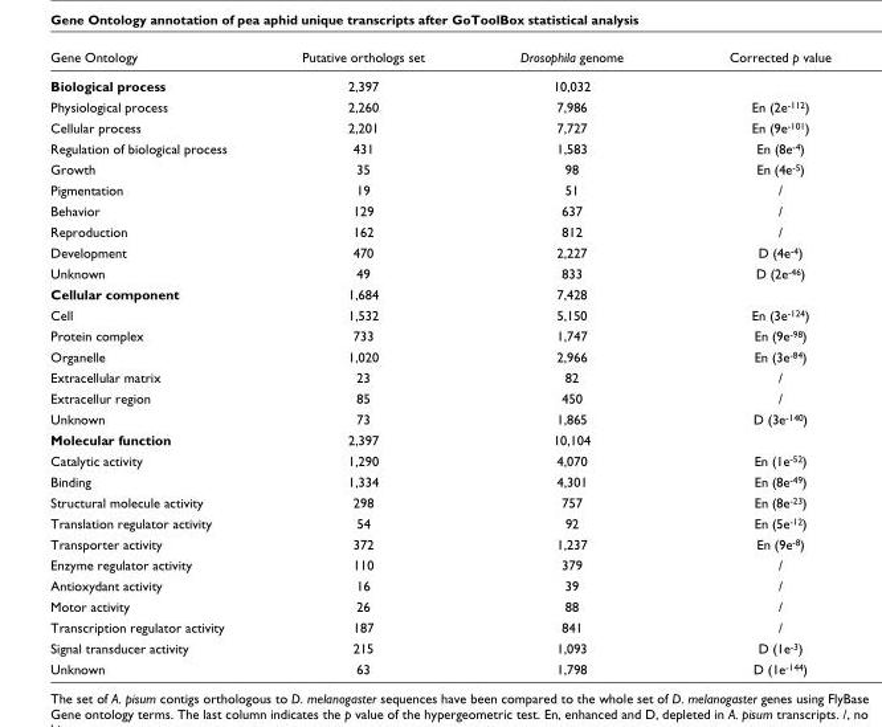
<table><thead><tr><td>Gene Ontology</td><td>Putative orthologs set</td><td>Drosophila genome</td><td>Corrected p value</td></tr></thead><tbody><tr><td>Biological process</td><td>2,397</td><td>10,032</td><td></td></tr><tr><td>Physiological process</td><td>2,260</td><td>7,986</td><td>En (2e-112)</td></tr><tr><td>Cellular process</td><td>2,201</td><td>7,727</td><td>En (9e-101)</td></tr><tr><td>Regulation of biological process</td><td>431</td><td>1,583</td><td>En (8e-4)</td></tr><tr><td>Growth</td><td>35</td><td>98</td><td>En (4e-5)</td></tr><tr><td>Pigmentation</td><td>19</td><td>51</td><td>/</td></tr><tr><td>Behavior</td><td>129</td><td>637</td><td>/</td></tr><tr><td>Reproduction</td><td>162</td><td>812</td><td>/</td></tr><tr><td>Development</td><td>470</td><td>2,227</td><td>D (4e-4)</td></tr><tr><td>Unknown</td><td>49</td><td>833</td><td>D (2e-46)</td></tr><tr><td>Cellular component</td><td>1,684</td><td>7,428</td><td></td></tr><tr><td>Cell</td><td>1,532</td><td>5,150</td><td>En (3e-124)</td></tr><tr><td>Protein complex</td><td>733</td><td>1,747</td><td>En (9e-98)</td></tr><tr><td>Organelle</td><td>1,020</td><td>2,966</td><td>En (3e-84)</td></tr><tr><td>Extracellular matrix</td><td>23</td><td>82</td><td>/</td></tr><tr><td>Extracellur region</td><td>85</td><td>450</td><td>/</td></tr><tr><td>Unknown</td><td>73</td><td>1,865</td><td>D (3e-140)</td></tr><tr><td>Molecular function</td><td>2,397</td><td>10,104</td><td></td></tr><tr><td>Catalytic activity</td><td>1,290</td><td>4,070</td><td>En (1e-52)</td></tr><tr><td>Binding</td><td>1,334</td><td>4,301</td><td>En (8e-49)</td></tr><tr><td>Structural molecule activity</td><td>298</td><td>757</td><td>En (8e-23)</td></tr><tr><td>Translation regulator activity</td><td>54</td><td>92</td><td>En (5e-12)</td></tr><tr><td>Transporter activity</td><td>372</td><td>1,237</td><td>En (9e-8)</td></tr><tr><td>Enzyme regulator activity</td><td>110</td><td>379</td><td>/</td></tr><tr><td>Antioxydant activity</td><td>16</td><td>39</td><td>/</td></tr><tr><td>Motor activity</td><td>26</td><td>88</td><td>/</td></tr><tr><td>Transcription regulator activity</td><td>187</td><td>841</td><td>/</td></tr><tr><td>Signal transducer activity</td><td>215</td><td>1,093</td><td>D (1e-3)</td></tr><tr><td>Unknown</td><td>63</td><td>1,798</td><td>D (1e-144)</td></tr></tbody></table>